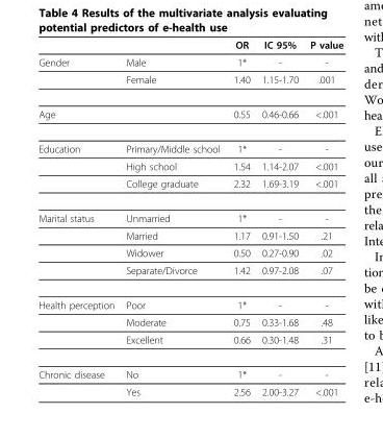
<table><thead><tr><td></td><td></td><td>OR</td><td>IC 95%</td><td>P value</td></tr></thead><tbody><tr><td rowspan="2">Gender</td><td>Male</td><td>1*</td><td>-</td><td>-</td></tr><tr><td>Female</td><td>1.40</td><td>1.15-1.70</td><td>.001</td></tr><tr><td>Age</td><td></td><td>0.55</td><td>0.46-0.66</td><td>&lt;.001</td></tr><tr><td rowspan="3">Education</td><td>Primary/Middle school</td><td>1*</td><td>-</td><td>-</td></tr><tr><td>High school</td><td>1.54</td><td>1.14-2.07</td><td>&lt;.001</td></tr><tr><td>College graduate</td><td>2.32</td><td>1.69-3.19</td><td>&lt;.001</td></tr><tr><td rowspan="4">Marital status</td><td>Unmarried</td><td>1*</td><td>-</td><td>-</td></tr><tr><td>Married</td><td>1.17</td><td>0.91-1.50</td><td>.21</td></tr><tr><td>Widower</td><td>0.50</td><td>0.27-0.90</td><td>.02</td></tr><tr><td>Separate/Divorce</td><td>1.42</td><td>0.97-2.08</td><td>.07</td></tr><tr><td rowspan="3">Health perception</td><td>Poor</td><td>1*</td><td>-</td><td>-</td></tr><tr><td>Moderate</td><td>0.75</td><td>0.33-1.68</td><td>.48</td></tr><tr><td>Excellent</td><td>0.66</td><td>0.30-1.48</td><td>.31</td></tr><tr><td rowspan="2">Chronic disease</td><td>No</td><td>1*</td><td>-</td><td>-</td></tr><tr><td>Yes</td><td>2.56</td><td>2.00-3.27</td><td>&lt;.001</td></tr></tbody></table>